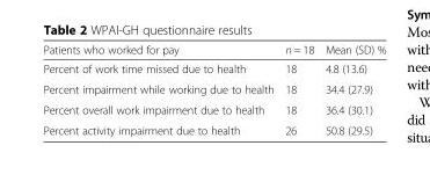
<table><thead><tr><td>Patients who worked for pay</td><td>n = 18</td><td>Mean (SD) %</td></tr></thead><tbody><tr><td>Percent of work time missed due to health</td><td>18</td><td>4.8 (13.6)</td></tr><tr><td>Percent impairment while working due to health</td><td>18</td><td>34.4 (27.9)</td></tr><tr><td>Percent overall work impairment due to health</td><td>18</td><td>36.4 (30.1)</td></tr><tr><td>Percent activity impairment due to health</td><td>26</td><td>50.8 (29.5)</td></tr></tbody></table>